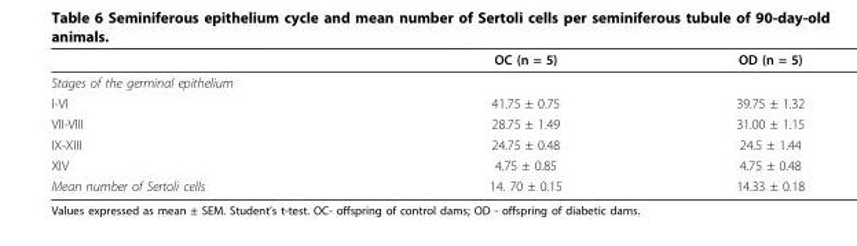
<table><thead><tr><td></td><td>OC (n = 5)</td><td>OD (n = 5)</td></tr></thead><tbody><tr><td colspan="3">Stages of the germinal epithelium</td></tr><tr><td>I-VI</td><td>41.75 ± 0.75</td><td>39.75 ± 1.32</td></tr><tr><td>VII-VIII</td><td>28.75 ± 1.49</td><td>31.00 ± 1.15</td></tr><tr><td>IX-XIII</td><td>24.75 ± 0.48</td><td>24.5 ± 1.44</td></tr><tr><td>XIV</td><td>4.75 ± 0.85</td><td>4.75 ± 0.48</td></tr><tr><td>Mean number of Sertoli cells</td><td>14. 70 ± 0.15</td><td>14.33 ± 0.18</td></tr></tbody></table>